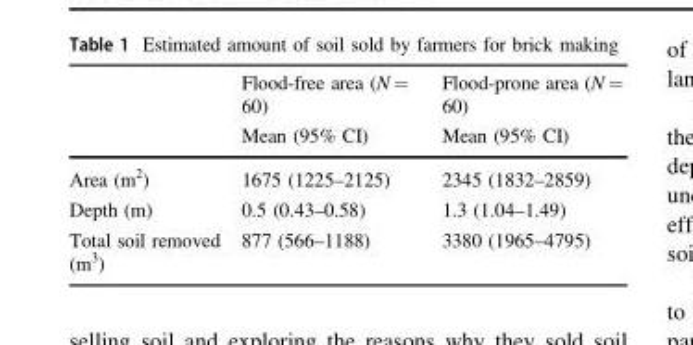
<table><thead><tr><td rowspan="2"></td><td rowspan="2">Flood-free area (N = 60) Mean (95% CI)</td><td rowspan="2">Flood-prone area (N = 60) Mean (95% CI)</td></tr><tr></tr></thead><tbody><tr><td>Area (m<sup>2</sup>)</td><td>1675 (1225–2125)</td><td>2345 (1832–2859)</td></tr><tr><td>Depth (m)</td><td>0.5 (0.43–0.58)</td><td>1.3 (1.04–1.49)</td></tr><tr><td>Total soil removed (m<sup>3</sup>)</td><td>877 (566–1188)</td><td>3380 (1965–4795)</td></tr></tbody></table>